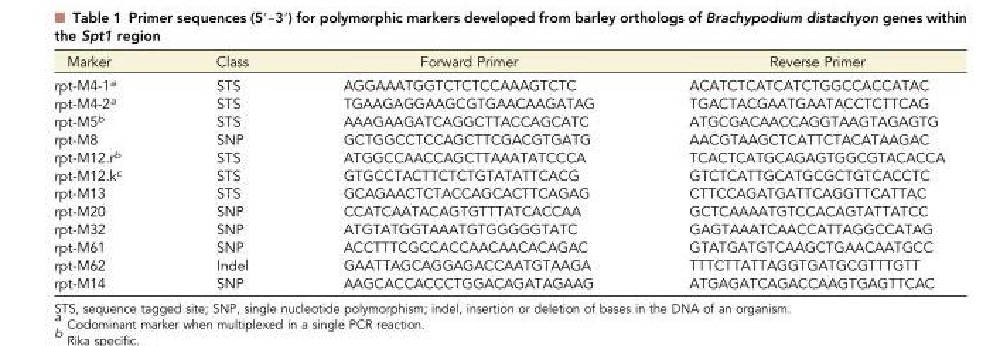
<table><thead><tr><td>Marker</td><td>Class</td><td>Forward Primer</td><td>Reverse Primer</td></tr></thead><tbody><tr><td>rpt-M4-1<sup>a</sup></td><td>STS</td><td>AGGAAATGGTCTCTCCAAAGTCTC</td><td>ACATCTCATCATCTGGCCACCATAC</td></tr><tr><td>rpt-M4-2<sup>a</sup></td><td>STS</td><td>TGAAGAGGAAGCGTGAACAAGATAG</td><td>TGACTACGAATGAATACCTCTTCAG</td></tr><tr><td>rpt-M5<sup>b</sup></td><td>STS</td><td>AAAGAAGATCAGGCTTACCAGCATC</td><td>ATGCGACAACCAGGTAAGTAGAGTG</td></tr><tr><td>rpt-M8</td><td>SNP</td><td>GCTGGCCTCCAGCTTCGACGTGATG</td><td>AACGTAAGCTCATTCTACATAAGAC</td></tr><tr><td>rpt-M12.r<sup>b</sup></td><td>STS</td><td>ATGGCCAACCAGCTTAAATATCCCA</td><td>TCACTCATGCAGAGTGGCGTACACCA</td></tr><tr><td>rpt-M12.k<sup>c</sup></td><td>STS</td><td>GTGCCTACTTCTCTGTATATTCACG</td><td>GTCTCATTGCATGCGCTGTCACCTC</td></tr><tr><td>rpt-M13</td><td>STS</td><td>GCAGAACTCTACCAGCACTTCAGAG</td><td>CTTCCAGATGATTCAGGTTCATTAC</td></tr><tr><td>rpt-M20</td><td>SNP</td><td>CCATCAATACAGTGTTTATCACCAA</td><td>GCTCAAAATGTCCACAGTATTATCC</td></tr><tr><td>rpt-M32</td><td>SNP</td><td>ATGTATGGTAAATGTGGGGGTATC</td><td>GAGTAAATCAACCATTAGGCCATAG</td></tr><tr><td>rpt-M61</td><td>SNP</td><td>ACCTTTCGCCACCAACAACACAGAC</td><td>GTATGATGTCAAGCTGAACAATGCC</td></tr><tr><td>rpt-M62</td><td>Indel</td><td>GAATTAGCAGGAGACCAATGTAAGA</td><td>TTTCTTATTAGGTGATGCGTTTGTT</td></tr><tr><td>rpt-M14</td><td>SNP</td><td>AAGCACCACCCTGGACAGATAGAAG</td><td>ATGAGATCAGACCAAGTGAGTTCAC</td></tr></tbody></table>